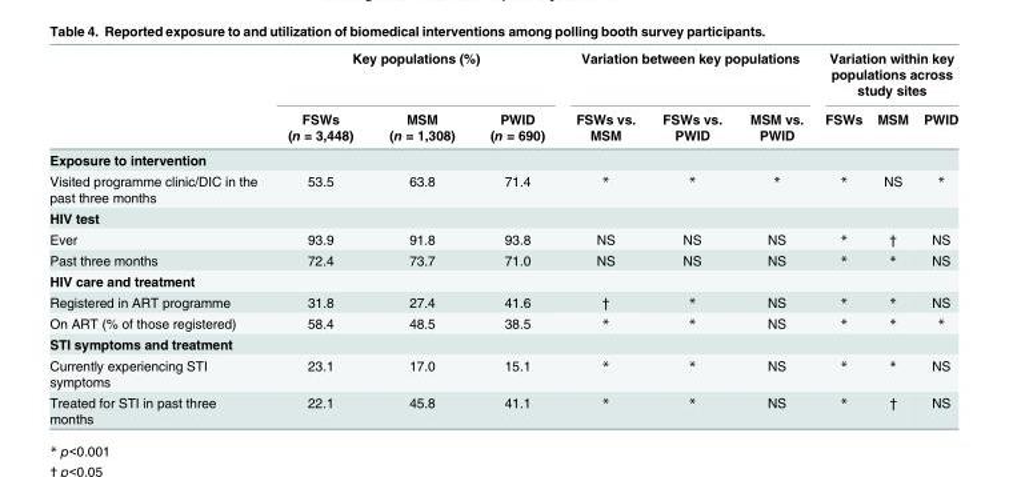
<table><thead><tr><td rowspan="2"></td><td colspan="3">Key populations (%)</td><td colspan="3">Variation between key populations</td><td colspan="3">Variation within key populations across study sites</td></tr><tr><td>FSWs (n = 3,448)</td><td>MSM (n = 1,308)</td><td>PWID (n = 690)</td><td>FSWs vs. MSM</td><td>FSWs vs. PWID</td><td>MSM vs. PWID</td><td>FSWs</td><td>MSM</td><td>PWID</td></tr></thead><tbody><tr><td colspan="10">Exposure to intervention</td></tr><tr><td>Visited programme clinic/DIC in the past three months</td><td>53.5</td><td>63.8</td><td>71.4</td><td>*</td><td>*</td><td>*</td><td>*</td><td>NS</td><td>*</td></tr><tr><td colspan="10">HIV test</td></tr><tr><td>Ever</td><td>93.9</td><td>91.8</td><td>93.8</td><td>NS</td><td>NS</td><td>NS</td><td>*</td><td>†</td><td>NS</td></tr><tr><td>Past three months</td><td>72.4</td><td>73.7</td><td>71.0</td><td>NS</td><td>NS</td><td>NS</td><td>*</td><td>*</td><td>NS</td></tr><tr><td colspan="10">HIV care and treatment</td></tr><tr><td>Registered in ART programme</td><td>31.8</td><td>27.4</td><td>41.6</td><td>†</td><td>*</td><td>NS</td><td>*</td><td>*</td><td>NS</td></tr><tr><td>On ART (% of those registered)</td><td>58.4</td><td>48.5</td><td>38.5</td><td>*</td><td>*</td><td>NS</td><td>*</td><td>*</td><td>*</td></tr><tr><td colspan="10">STI symptoms and treatment</td></tr><tr><td>Currently experiencing STI symptoms</td><td>23.1</td><td>17.0</td><td>15.1</td><td>*</td><td>*</td><td>NS</td><td>*</td><td>*</td><td>NS</td></tr><tr><td>Treated for STI in past three months</td><td>22.1</td><td>45.8</td><td>41.1</td><td>*</td><td>*</td><td>NS</td><td>*</td><td>†</td><td>NS</td></tr></tbody></table>